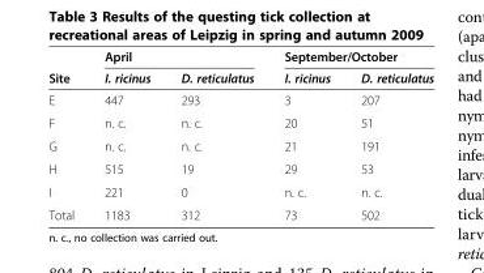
<table><thead><tr><td rowspan="2">Site</td><td colspan="2">April</td><td colspan="2">September/October</td></tr><tr><td>I. ricinus</td><td>D. reticulatus</td><td>I. ricinus</td><td>D. reticulatus</td></tr></thead><tbody><tr><td>E</td><td>447</td><td>293</td><td>3</td><td>207</td></tr><tr><td>F</td><td>n. c.</td><td>n. c.</td><td>20</td><td>51</td></tr><tr><td>G</td><td>n. c.</td><td>n. c.</td><td>21</td><td>191</td></tr><tr><td>H</td><td>515</td><td>19</td><td>29</td><td>53</td></tr><tr><td>I</td><td>221</td><td>0</td><td>n. c.</td><td>n. c.</td></tr><tr><td>Total</td><td>1183</td><td>312</td><td>73</td><td>502</td></tr></tbody></table>